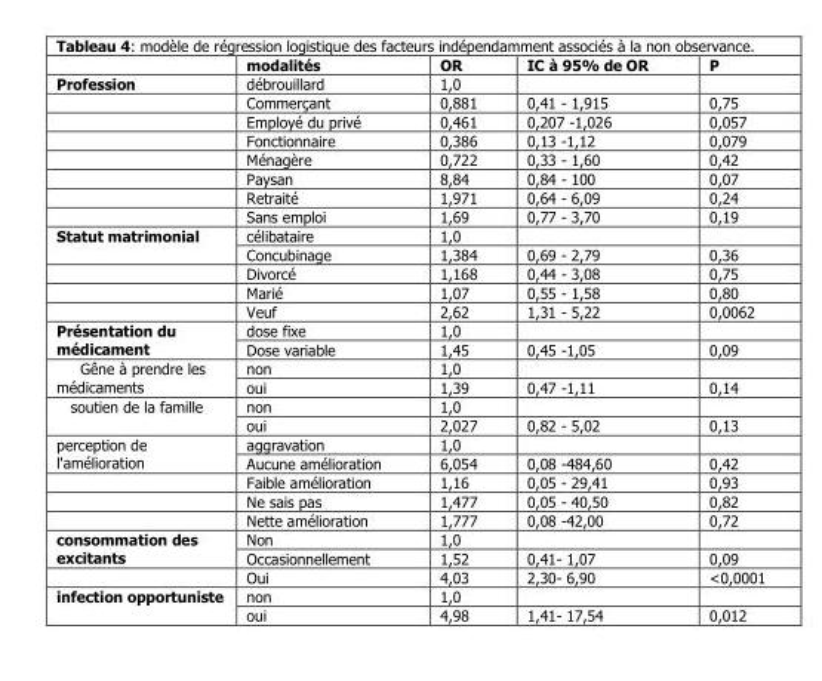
<table><thead><tr><td></td><td>modalités</td><td>OR</td><td>IC à 95% de OR</td><td>P</td></tr></thead><tbody><tr><td rowspan="8">Profession</td><td>débrouillard</td><td>1,0</td><td></td><td></td></tr><tr><td>Commerçant</td><td>0,881</td><td>0,41 - 1,915</td><td>0,75</td></tr><tr><td>Employé du privé</td><td>0,461</td><td>0,207 -1,026</td><td>0,057</td></tr><tr><td>Fonctionnaire</td><td>0,386</td><td>0,13 -1,12</td><td>0,079</td></tr><tr><td>Ménagère</td><td>0,722</td><td>0,33 - 1,60</td><td>0,42</td></tr><tr><td>Paysan</td><td>8,84</td><td>0,84 - 100</td><td>0,07</td></tr><tr><td>Retraité</td><td>1,971</td><td>0,64 - 6,09</td><td>0,24</td></tr><tr><td>Sans emploi</td><td>1,69</td><td>0,77 - 3,70</td><td>0,19</td></tr><tr><td rowspan="5">Statut matrimonial</td><td>célibataire</td><td>1,0</td><td></td><td></td></tr><tr><td>Concubinage</td><td>1,384</td><td>0,69 - 2,79</td><td>0,36</td></tr><tr><td>Divorcé</td><td>1,168</td><td>0,44 - 3,08</td><td>0,75</td></tr><tr><td>Marié</td><td>1,07</td><td>0,55 - 1,58</td><td>0,80</td></tr><tr><td>Veuf</td><td>2,62</td><td>1,31 - 5,22</td><td>0,0062</td></tr><tr><td rowspan="2">Présentation du médicament</td><td>dose fixe</td><td>1,0</td><td></td><td></td></tr><tr><td>Dose variable</td><td>1,45</td><td>0,45 -1,05</td><td>0,09</td></tr><tr><td rowspan="2">Gêne à prendre les médicaments</td><td>non</td><td>1,0</td><td></td><td></td></tr><tr><td>oui</td><td>1,39</td><td>0,47 -1,11</td><td>0,14</td></tr><tr><td rowspan="2">soutien de la famille</td><td>non</td><td>1,0</td><td></td><td></td></tr><tr><td>oui</td><td>2,027</td><td>0,82 - 5,02</td><td>0,13</td></tr><tr><td rowspan="5">perception de l&#x27;amélioration</td><td>aggravation</td><td>1,0</td><td></td><td></td></tr><tr><td>Aucune amélioration</td><td>6,054</td><td>0,08 -484,60</td><td>0,42</td></tr><tr><td>Faible amélioration</td><td>1,16</td><td>0,05 - 29,41</td><td>0,93</td></tr><tr><td>Ne sais pas</td><td>1,477</td><td>0,05 - 40,50</td><td>0,82</td></tr><tr><td>Nette amélioration</td><td>1,777</td><td>0,08 -42,00</td><td>0,72</td></tr><tr><td rowspan="3">consommation des excitants</td><td>Non</td><td>1,0</td><td></td><td></td></tr><tr><td>Occasionnellement</td><td>1,52</td><td>0,41- 1,07</td><td>0,09</td></tr><tr><td>Oui</td><td>4,03</td><td>2,30- 6,90</td><td>&lt;0,0001</td></tr><tr><td rowspan="2">infection opportuniste</td><td>non</td><td>1,0</td><td></td><td></td></tr><tr><td>oui</td><td>4,98</td><td>1,41- 17,54</td><td>0,012</td></tr></tbody></table>